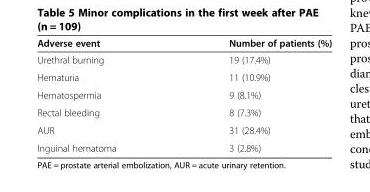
<table><thead><tr><td>Adverse event</td><td>Number of patients (%)</td></tr></thead><tbody><tr><td>Urethral burning</td><td>19 (17.4%)</td></tr><tr><td>Hematuria</td><td>11 (10.9%)</td></tr><tr><td>Hematospermia</td><td>9 (8.1%)</td></tr><tr><td>Rectal bleeding</td><td>8 (7.3%)</td></tr><tr><td>AUR</td><td>31 (28.4%)</td></tr><tr><td>Inguinal hematoma</td><td>3 (2.8%)</td></tr></tbody></table>